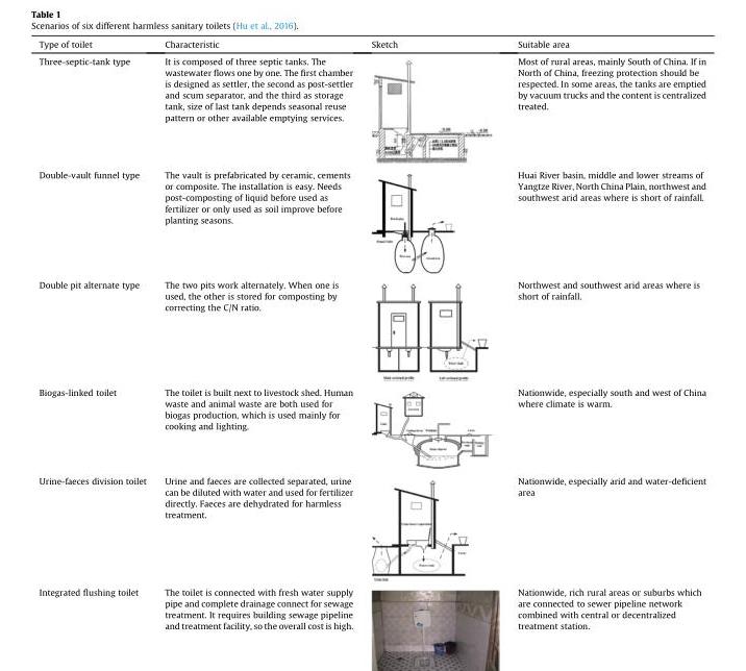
<table><thead><tr><td>Type of toilet</td><td>Characteristic</td><td>Sketch</td><td>Suitable area</td></tr></thead><tbody><tr><td>Three-septic-tank type</td><td>It is composed of three septic tanks. The wastewater flows one by one. The first chamber is designed as settler, the second as post-settler and scum separator, and the third as storage tank, size of last tank depends seasonal reuse pattern or other available emptying services.</td><td></td><td>Most of rural areas, mainly South of China. If in North of China, freezing protection should be respected. In some areas, the tanks are emptied by vacuum trucks and the content is centralized treated.</td></tr><tr><td>Double-vault funnel type</td><td>The vault is prefabricated by ceramic, cements or composite. The installation is easy. Needs post-composting of liquid before used as fertilizer or only used as soil improve before planting seasons.</td><td></td><td>Huai River basin, middle and lower streams of Yangtze River, North China Plain, northwest and southwest arid areas where is short of rainfall.</td></tr><tr><td>Double pit alternate type</td><td>The two pits work alternately. When one is used, the other is stored for composting by correcting the C/N ratio.</td><td></td><td>Northwest and southwest arid areas where is short of rainfall.</td></tr><tr><td>Biogas-linked toilet</td><td>The toilet is built next to livestock shed. Human waste and animal waste are both used for biogas production, which is used mainly for cooking and lighting.</td><td></td><td>Nationwide, especially south and west of China where climate is warm.</td></tr><tr><td>Urine-faeces division toilet</td><td>Urine and faeces are collected separated, urine can be diluted with water and used for fertilizer directly. Faeces are dehydrated for harmless treatment.</td><td></td><td>Nationwide, especially arid and water-deficient area</td></tr><tr><td>Integrated flushing toilet</td><td>The toilet is connected with fresh water supply pipe and complete drainage connect for sewage treatment. It requires building sewage pipeline and treatment facility, so the overall cost is high.</td><td></td><td>Nationwide, rich rural areas or suburbs which are connected to sewer pipeline network combined with central or decentralized treatment station.</td></tr></tbody></table>